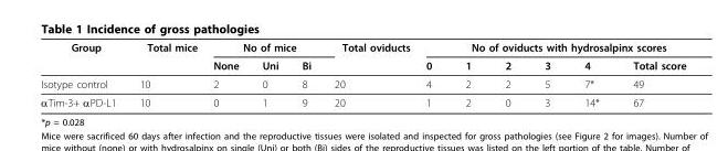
<table><thead><tr><td rowspan="2">Group</td><td rowspan="2">Total mice</td><td colspan="3">No of mice</td><td rowspan="2">Total oviducts</td><td colspan="6">No of oviducts with hydrosalpinx scores</td></tr><tr><td>None</td><td>Uni</td><td>Bi</td><td>0</td><td>1</td><td>2</td><td>3</td><td>4</td><td>Total score</td></tr></thead><tbody><tr><td>Isotype control</td><td>10</td><td>2</td><td>0</td><td>8</td><td>20</td><td>4</td><td>2</td><td>2</td><td>5</td><td>7*</td><td>49</td></tr><tr><td>αTim-3+ αPD-L1</td><td>10</td><td>0</td><td>1</td><td>9</td><td>20</td><td>1</td><td>2</td><td>0</td><td>3</td><td>14*</td><td>67</td></tr></tbody></table>